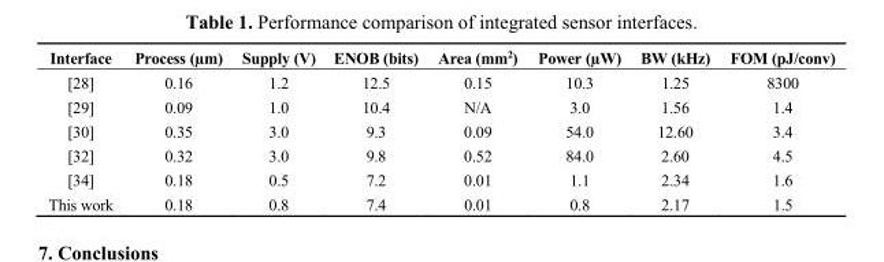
<table><thead><tr><td>Interface</td><td>Process (µm)</td><td>Supply (V)</td><td>ENOB (bits)</td><td>Area (mm<sup>2</sup>)</td><td>Power (µW)</td><td>BW (kHz)</td><td>FOM (pJ/conv)</td></tr></thead><tbody><tr><td>[28]</td><td>0.16</td><td>1.2</td><td>12.5</td><td>0.15</td><td>10.3</td><td>1.25</td><td>8300</td></tr><tr><td>[29]</td><td>0.09</td><td>1.0</td><td>10.4</td><td>N/A</td><td>3.0</td><td>1.56</td><td>1.4</td></tr><tr><td>[30]</td><td>0.35</td><td>3.0</td><td>9.3</td><td>0.09</td><td>54.0</td><td>12.60</td><td>3.4</td></tr><tr><td>[32]</td><td>0.32</td><td>3.0</td><td>9.8</td><td>0.52</td><td>84.0</td><td>2.60</td><td>4.5</td></tr><tr><td>[34]</td><td>0.18</td><td>0.5</td><td>7.2</td><td>0.01</td><td>1.1</td><td>2.34</td><td>1.6</td></tr><tr><td>This work</td><td>0.18</td><td>0.8</td><td>7.4</td><td>0.01</td><td>0.8</td><td>2.17</td><td>1.5</td></tr></tbody></table>